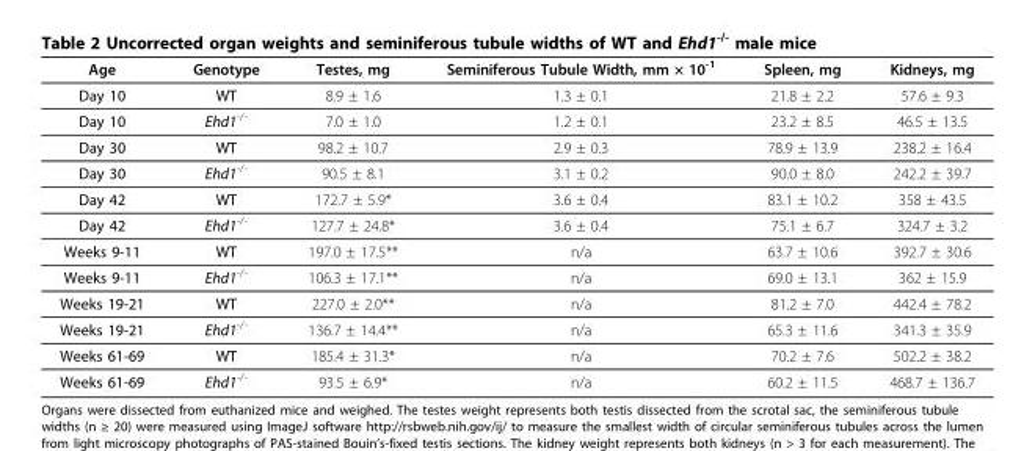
<table><thead><tr><td>Age</td><td>Genotype</td><td>Testes, mg</td><td>Seminiferous Tubule Width, mm × 10<sup>-1</sup></td><td>Spleen, mg</td><td>Kidneys, mg</td></tr></thead><tbody><tr><td>Day 10</td><td>WT</td><td>8.9 ± 1.6</td><td>1.3 ± 0.1</td><td>21.8 ± 2.2</td><td>57.6 ± 9.3</td></tr><tr><td>Day 10</td><td>Ehd1<sup>-/-</sup></td><td>7.0 ± 1.0</td><td>1.2 ± 0.1</td><td>23.2 ± 8.5</td><td>46.5 ± 13.5</td></tr><tr><td>Day 30</td><td>WT</td><td>98.2 ± 10.7</td><td>2.9 ± 0.3</td><td>78.9 ± 13.9</td><td>238.2 ± 16.4</td></tr><tr><td>Day 30</td><td>Ehd1<sup>-/-</sup></td><td>90.5 ± 8.1</td><td>3.1 ± 0.2</td><td>90.0 ± 8.0</td><td>242.2 ± 39.7</td></tr><tr><td>Day 42</td><td>WT</td><td>172.7 ± 5.9*</td><td>3.6 ± 0.4</td><td>83.1 ± 10.2</td><td>358 ± 43.5</td></tr><tr><td>Day 42</td><td>Ehd1<sup>-/-</sup></td><td>127.7 ± 24.8*</td><td>3.6 ± 0.4</td><td>75.1 ± 6.7</td><td>324.7 ± 3.2</td></tr><tr><td>Weeks 9-11</td><td>WT</td><td>197.0 ± 17.5**</td><td>n/a</td><td>63.7 ± 10.6</td><td>392.7 ± 30.6</td></tr><tr><td>Weeks 9-11</td><td>Ehd1<sup>-/-</sup></td><td>106.3 ± 17.1**</td><td>n/a</td><td>69.0 ± 13.1</td><td>362 ± 15.9</td></tr><tr><td>Weeks 19-21</td><td>WT</td><td>227.0 ± 2.0**</td><td>n/a</td><td>81.2 ± 7.0</td><td>442.4 ± 78.2</td></tr><tr><td>Weeks 19-21</td><td>Ehd1<sup>-/-</sup></td><td>136.7 ± 14.4**</td><td>n/a</td><td>65.3 ± 11.6</td><td>341.3 ± 35.9</td></tr><tr><td>Weeks 61-69</td><td>WT</td><td>185.4 ± 31.3*</td><td>n/a</td><td>70.2 ± 7.6</td><td>502.2 ± 38.2</td></tr><tr><td>Weeks 61-69</td><td>Ehd1<sup>-/-</sup></td><td>93.5 ± 6.9*</td><td>n/a</td><td>60.2 ± 11.5</td><td>468.7 ± 136.7</td></tr></tbody></table>